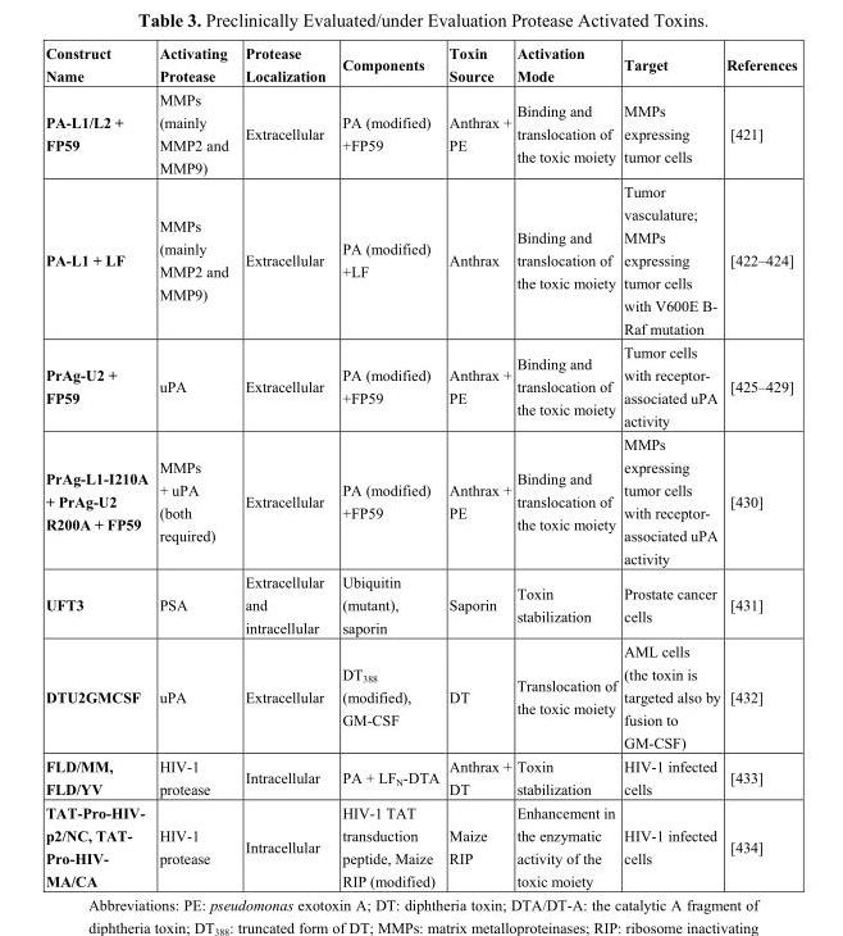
<table><thead><tr><td>Construct Name</td><td>Activating Protease</td><td>Protease Localization</td><td>Components</td><td>Toxin Source</td><td>Activation Mode</td><td>Target</td><td>References</td></tr></thead><tbody><tr><td>PA-L1/L2 + FP59</td><td>MMPs (mainly MMP2 and MMP9)</td><td>Extracellular</td><td>PA (modified) +FP59</td><td>Anthrax + PE</td><td>Binding and translocation of the toxic moiety</td><td>MMPs expressing tumor cells</td><td>[421]</td></tr><tr><td>PA-L1 + LF</td><td>MMPs (mainly MMP2 and MMP9)</td><td>Extracellular</td><td>PA (modified) +LF</td><td>Anthrax</td><td>Binding and translocation of the toxic moiety</td><td>Tumor vasculature; MMPs expressing tumor cells with V600E B- Raf mutation</td><td>[422–424]</td></tr><tr><td>PrAg-U2 + FP59</td><td>uPA</td><td>Extracellular</td><td>PA (modified) +FP59</td><td>Anthrax + PE</td><td>Binding and translocation of the toxic moiety</td><td>Tumor cells with receptor- associated uPA activity</td><td>[425–429]</td></tr><tr><td>PrAg-L1-I210A + PrAg-U2 R200A + FP59</td><td>MMPs + uPA (both required)</td><td>Extracellular</td><td>PA (modified) +FP59</td><td>Anthrax + PE</td><td>Binding and translocation of the toxic moiety</td><td>MMPs expressing tumor cells with receptor- associated uPA activity</td><td>[430]</td></tr><tr><td>UFT3</td><td>PSA</td><td>Extracellular and intracellular</td><td>Ubiquitin (mutant), saporin</td><td>Saporin</td><td>Toxin stabilization</td><td>Prostate cancer cells</td><td>[431]</td></tr><tr><td>DTU2GMCSF</td><td>uPA</td><td>Extracellular</td><td>DT<sub>388</sub> (modified), GM-CSF</td><td>DT</td><td>Translocation of the toxic moiety</td><td>AML cells (the toxin is targeted also by fusion to GM-CSF)</td><td>[432]</td></tr><tr><td>FLD/MM, FLD/YV</td><td>HIV-1 protease</td><td>Intracellular</td><td>PA + LF<sub>N</sub>-DTA</td><td>Anthrax + DT</td><td>Toxin stabilization</td><td>HIV-1 infected cells</td><td>[433]</td></tr><tr><td>TAT-Pro-HIV- p2/NC, TAT- Pro-HIV- MA/CA</td><td>HIV-1 protease</td><td>Intracellular</td><td>HIV-1 TAT transduction peptide, Maize RIP (modified)</td><td>Maize RIP</td><td>Enhancement in the enzymatic activity of the toxic moiety</td><td>HIV-1 infected cells</td><td>[434]</td></tr></tbody></table>